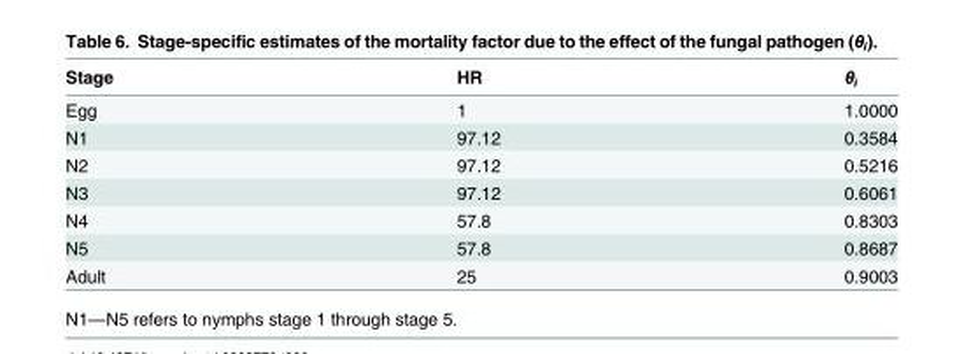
<table><thead><tr><td>Stage</td><td>HR</td><td>θ<sub>i</sub></td></tr></thead><tbody><tr><td>Egg</td><td>1</td><td>1.0000</td></tr><tr><td>N1</td><td>97.12</td><td>0.3584</td></tr><tr><td>N2</td><td>97.12</td><td>0.5216</td></tr><tr><td>N3</td><td>97.12</td><td>0.6061</td></tr><tr><td>N4</td><td>57.8</td><td>0.8303</td></tr><tr><td>N5</td><td>57.8</td><td>0.8687</td></tr><tr><td>Adult</td><td>25</td><td>0.9003</td></tr></tbody></table>